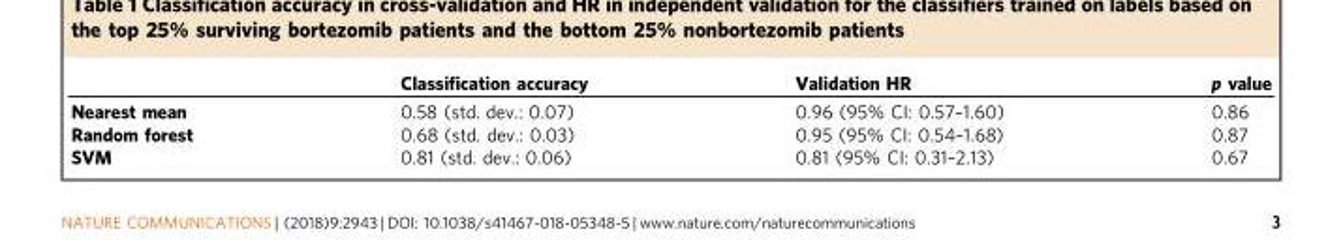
<table><thead><tr><td></td><td>Classification accuracy</td><td>Validation HR</td><td>p value</td></tr></thead><tbody><tr><td>Nearest mean</td><td>0.58 (std. dev.: 0.07)</td><td>0.96 (95% CI: 0.57–1.60)</td><td>0.86</td></tr><tr><td>Random forest</td><td>0.68 (std. dev.: 0.03)</td><td>0.95 (95% CI: 0.54–1.68)</td><td>0.87</td></tr><tr><td>SVM</td><td>0.81 (std. dev.: 0.06)</td><td>0.81 (95% CI: 0.31–2.13)</td><td>0.67</td></tr></tbody></table>